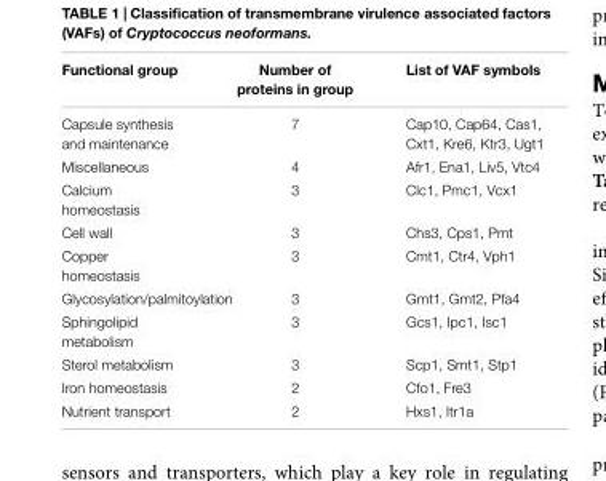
<table><thead><tr><td>Functional group</td><td>Number of proteins in group</td><td>List of VAF symbols</td></tr></thead><tbody><tr><td>Capsule synthesis and maintenance</td><td>7</td><td>Cap10, Cap64, Cas1, Cxt1, Kre6, Ktr3, Ugt1</td></tr><tr><td>Miscellaneous</td><td>4</td><td>Afr1, Ena1, Liv5, Vtc4</td></tr><tr><td>Calcium homeostasis</td><td>3</td><td>Clc1, Pmc1, Vcx1</td></tr><tr><td>Cell wall</td><td>3</td><td>Chs3, Cps1, Pmt</td></tr><tr><td>Copper homeostasis</td><td>3</td><td>Cmt1, Ctr4, Vph1</td></tr><tr><td>Glycosylation/palmitoylation</td><td>3</td><td>Gmt1, Gmt2, Pfa4</td></tr><tr><td>Sphingolipid metabolism</td><td>3</td><td>Gcs1, Ipc1, Isc1</td></tr><tr><td>Sterol metabolism</td><td>3</td><td>Scp1, Smt1, Stp1</td></tr><tr><td>Iron homeostasis</td><td>2</td><td>Cfo1, Fre3</td></tr><tr><td>Nutrient transport</td><td>2</td><td>Hxs1, Itr1a</td></tr></tbody></table>